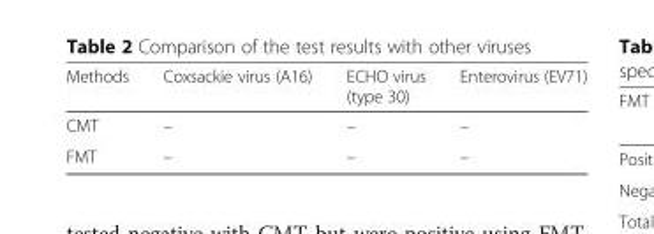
<table><thead><tr><td>Methods</td><td>Coxsackie virus (A16)</td><td>ECHO virus (type 30)</td><td>Enterovirus (EV71)</td></tr></thead><tbody><tr><td>CMT</td><td>–</td><td>–</td><td>–</td></tr><tr><td>FMT</td><td>–</td><td>–</td><td>–</td></tr></tbody></table>